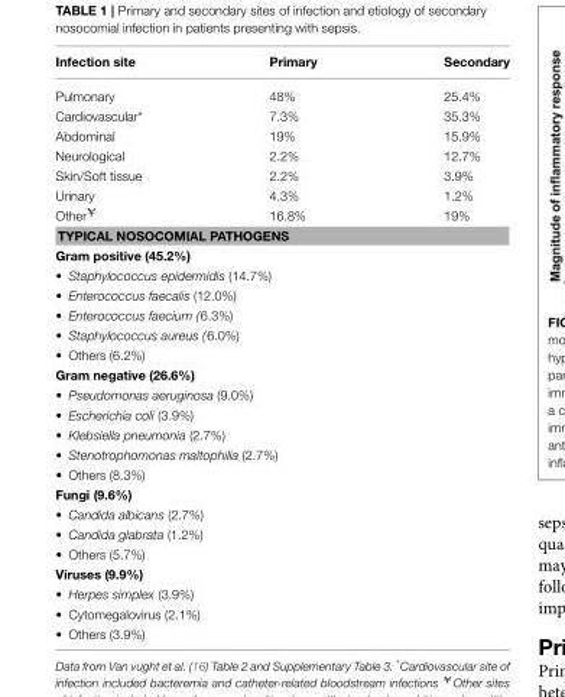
<table><thead><tr><td>Infection site</td><td>Primary</td><td>Secondary</td></tr></thead><tbody><tr><td>Pulmonary</td><td>48%</td><td>25.4%</td></tr><tr><td>Cardiovascular*</td><td>7.3%</td><td>35.3%</td></tr><tr><td>Abdominal</td><td>19%</td><td>15.9%</td></tr><tr><td>Neurological</td><td>2.2%</td><td>12.7%</td></tr><tr><td>Skin/Soft tissue</td><td>2.2%</td><td>3.9%</td></tr><tr><td>Urinary</td><td>4.3%</td><td>1.2%</td></tr><tr><td>Other<sup>¥</sup></td><td>16.8%</td><td>19%</td></tr><tr><td colspan="3">TYPICAL NOSOCOMIAL PATHOGENS</td></tr><tr><td colspan="3">Gram positive (45.2%)</td></tr><tr><td colspan="3">• Staphylococcus epidermidis (14.7%)</td></tr><tr><td colspan="3">• Enterococcus faecalis (12.0%)</td></tr><tr><td colspan="3">• Enterococcus faecium (6.3%)</td></tr><tr><td colspan="3">• Staphylococcus aureus (6.0%)</td></tr><tr><td colspan="3">• Others (6.2%)</td></tr><tr><td colspan="3">Gram negative (26.6%)</td></tr><tr><td colspan="3">• Pseudomonas aeruginosa (9.0%)</td></tr><tr><td colspan="3">• Escherichia coli (3.9%)</td></tr><tr><td colspan="3">• Klebsiella pneumonia (2.7%)</td></tr><tr><td colspan="3">• Stenotrophomonas maltophilia (2.7%)</td></tr><tr><td colspan="3">• Others (8.3%)</td></tr><tr><td colspan="3">Fungi (9.6%)</td></tr><tr><td colspan="3">• Candida albicans (2.7%)</td></tr><tr><td colspan="3">• Candida glabrata (1.2%)</td></tr><tr><td colspan="3">• Others (5.7%)</td></tr><tr><td colspan="3">Viruses (9.9%)</td></tr><tr><td colspan="3">• Herpes simplex (3.9%)</td></tr><tr><td colspan="3">• Cytomegalovirus (2.1%)</td></tr><tr><td colspan="3">• Others (3.9%)</td></tr></tbody></table>